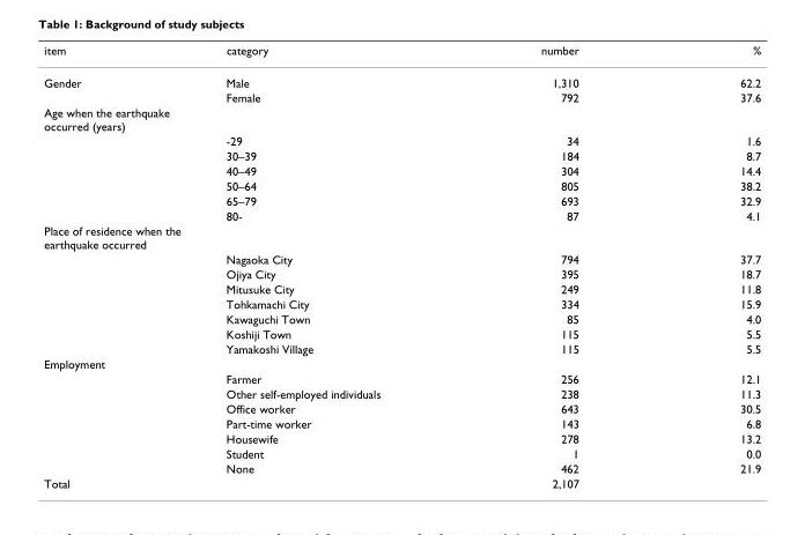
<table><thead><tr><td>item</td><td>category</td><td>number</td><td>%</td></tr></thead><tbody><tr><td rowspan="2">Gender</td><td>Male</td><td>1,310</td><td>62.2</td></tr><tr><td>Female</td><td>792</td><td>37.6</td></tr><tr><td colspan="4">Age when the earthquake occurred (years)</td></tr><tr><td></td><td>-29</td><td>34</td><td>1.6</td></tr><tr><td></td><td>30–39</td><td>184</td><td>8.7</td></tr><tr><td></td><td>40–49</td><td>304</td><td>14.4</td></tr><tr><td></td><td>50–64</td><td>805</td><td>38.2</td></tr><tr><td></td><td>65–79</td><td>693</td><td>32.9</td></tr><tr><td></td><td>80-</td><td>87</td><td>4.1</td></tr><tr><td colspan="4">Place of residence when the earthquake occurred</td></tr><tr><td></td><td>Nagaoka City</td><td>794</td><td>37.7</td></tr><tr><td></td><td>Ojiya City</td><td>395</td><td>18.7</td></tr><tr><td></td><td>Mitusuke City</td><td>249</td><td>11.8</td></tr><tr><td></td><td>Tohkamachi City</td><td>334</td><td>15.9</td></tr><tr><td></td><td>Kawaguchi Town</td><td>85</td><td>4.0</td></tr><tr><td></td><td>Koshiji Town</td><td>115</td><td>5.5</td></tr><tr><td></td><td>Yamakoshi Village</td><td>115</td><td>5.5</td></tr><tr><td colspan="4">Employment</td></tr><tr><td></td><td>Farmer</td><td>256</td><td>12.1</td></tr><tr><td></td><td>Other self-employed individuals</td><td>238</td><td>11.3</td></tr><tr><td></td><td>Office worker</td><td>643</td><td>30.5</td></tr><tr><td></td><td>Part-time worker</td><td>143</td><td>6.8</td></tr><tr><td></td><td>Housewife</td><td>278</td><td>13.2</td></tr><tr><td></td><td>Student</td><td>1</td><td>0.0</td></tr><tr><td></td><td>None</td><td>462</td><td>21.9</td></tr><tr><td>Total</td><td></td><td>2,107</td><td></td></tr></tbody></table>